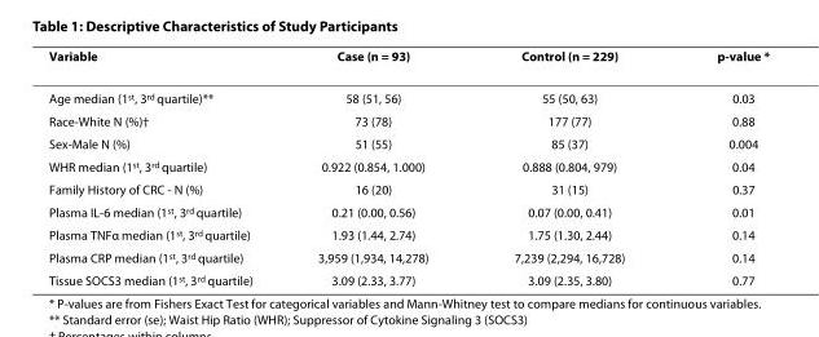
<table><thead><tr><td>Variable</td><td>Case (n = 93)</td><td>Control (n = 229)</td><td>p-value *</td></tr></thead><tbody><tr><td>Age median (1<sup>st</sup>, 3<sup>rd</sup> quartile)**</td><td>58 (51, 56)</td><td>55 (50, 63)</td><td>0.03</td></tr><tr><td>Race-White N (%)†</td><td>73 (78)</td><td>177 (77)</td><td>0.88</td></tr><tr><td>Sex-Male N (%)</td><td>51 (55)</td><td>85 (37)</td><td>0.004</td></tr><tr><td>WHR median (1<sup>st</sup>, 3<sup>rd</sup> quartile)</td><td>0.922 (0.854, 1.000)</td><td>0.888 (0.804, 979)</td><td>0.04</td></tr><tr><td>Family History of CRC - N (%)</td><td>16 (20)</td><td>31 (15)</td><td>0.37</td></tr><tr><td>Plasma IL-6 median (1<sup>st</sup>, 3<sup>rd</sup> quartile)</td><td>0.21 (0.00, 0.56)</td><td>0.07 (0.00, 0.41)</td><td>0.01</td></tr><tr><td>Plasma TNFα median (1<sup>st</sup>, 3<sup>rd</sup> quartile)</td><td>1.93 (1.44, 2.74)</td><td>1.75 (1.30, 2.44)</td><td>0.14</td></tr><tr><td>Plasma CRP median (1<sup>st</sup>, 3<sup>rd</sup> quartile)</td><td>3,959 (1,934, 14,278)</td><td>7,239 (2,294, 16,728)</td><td>0.14</td></tr><tr><td>Tissue SOCS3 median (1<sup>st</sup>, 3<sup>rd</sup> quartile)</td><td>3.09 (2.33, 3.77)</td><td>3.09 (2.35, 3.80)</td><td>0.77</td></tr></tbody></table>